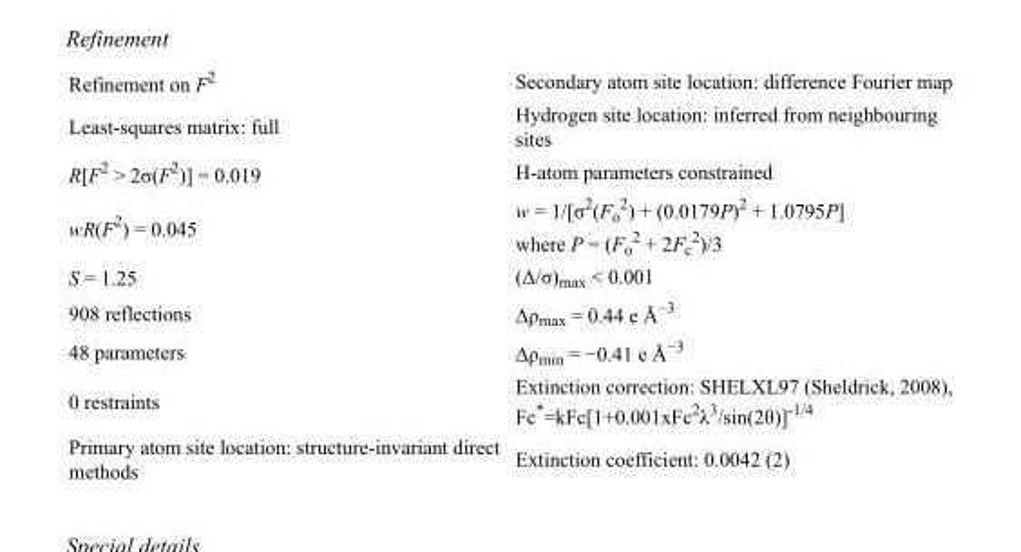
<table><tbody><tr><td>Refinement on F<sup>2</sup></td><td>Secondary atom site location: difference Fourier map</td></tr><tr><td>Least-squares matrix: full</td><td>Hydrogen site location: inferred from neighbouring sites</td></tr><tr><td>R[F<sup>2</sup> &gt; 2σ(F<sup>2</sup>)] = 0.019</td><td>H-atom parameters constrained</td></tr><tr><td>wR(F<sup>2</sup>) = 0.045</td><td>w = 1/[σ<sup>2</sup>(F<sub>o</sub> <sup>2</sup>) + (0.0179P)<sup>2</sup> + 1.0795P] where P = (F<sub>o</sub> <sup>2</sup> + 2F<sub>c</sub> <sup>2</sup>)/3</td></tr><tr><td>S = 1.25</td><td>(Δ/σ)<sub>max</sub> &lt; 0.001</td></tr><tr><td>908 reflections</td><td>Δρ<sub>max</sub> = 0.44 e Å<sup>−3</sup></td></tr><tr><td>48 parameters</td><td>Δρ<sub>min</sub> = −0.41 e Å<sup>−3</sup></td></tr><tr><td>0 restraints</td><td>Extinction correction: SHELXL97 (Sheldrick, 2008), Fc*=kFc[1+0.001xFc<sup>2</sup>λ<sup>3</sup>/sin(2θ)]<sup>-1/4</sup></td></tr><tr><td>Primary atom site location: structure-invariant direct methods</td><td>Extinction coefficient: 0.0042 (2)</td></tr></tbody></table>